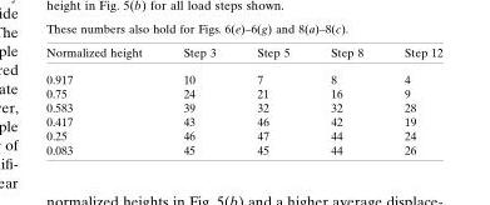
<table><thead><tr><td>Normalized height</td><td>Step 3</td><td>Step 5</td><td>Step 8</td><td>Step 12</td></tr></thead><tbody><tr><td>0.917</td><td>10</td><td>7</td><td>8</td><td>4</td></tr><tr><td>0.75</td><td>24</td><td>21</td><td>16</td><td>9</td></tr><tr><td>0.583</td><td>39</td><td>32</td><td>32</td><td>28</td></tr><tr><td>0.417</td><td>43</td><td>46</td><td>42</td><td>19</td></tr><tr><td>0.25</td><td>46</td><td>47</td><td>44</td><td>24</td></tr><tr><td>0.083</td><td>45</td><td>45</td><td>44</td><td>26</td></tr></tbody></table>